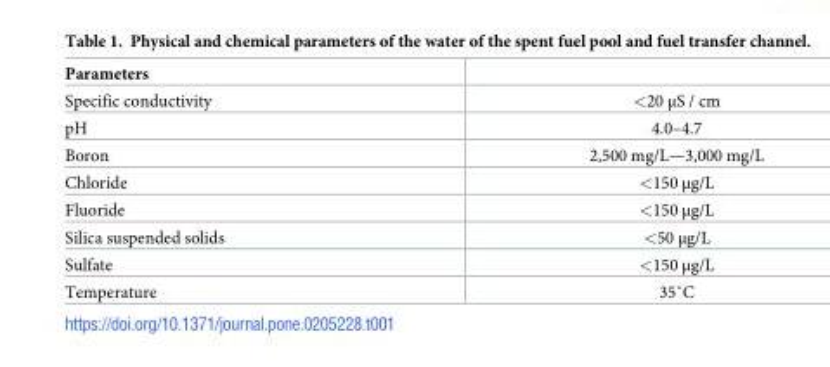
<table><thead><tr><td>Parameters</td><td></td></tr></thead><tbody><tr><td>Specific conductivity</td><td>&lt;20 μS / cm</td></tr><tr><td>pH</td><td>4.0–4.7</td></tr><tr><td>Boron</td><td>2,500 mg/L—3,000 mg/L</td></tr><tr><td>Chloride</td><td>&lt;150 μg/L</td></tr><tr><td>Fluoride</td><td>&lt;150 μg/L</td></tr><tr><td>Silica suspended solids</td><td>&lt;50 μg/L</td></tr><tr><td>Sulfate</td><td>&lt;150 μg/L</td></tr><tr><td>Temperature</td><td>35˚C</td></tr></tbody></table>